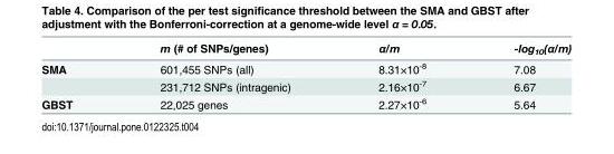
<table><thead><tr><td></td><td>m (# of SNPs/genes)</td><td>α/m</td><td>-log<sub>10</sub>(α/m)</td></tr></thead><tbody><tr><td rowspan="2">SMA</td><td>601,455 SNPs (all)</td><td>8.31×10<sup>-8</sup></td><td>7.08</td></tr><tr><td>231,712 SNPs (intragenic)</td><td>2.16×10<sup>-7</sup></td><td>6.67</td></tr><tr><td>GBST</td><td>22,025 genes</td><td>2.27×10<sup>-6</sup></td><td>5.64</td></tr></tbody></table>